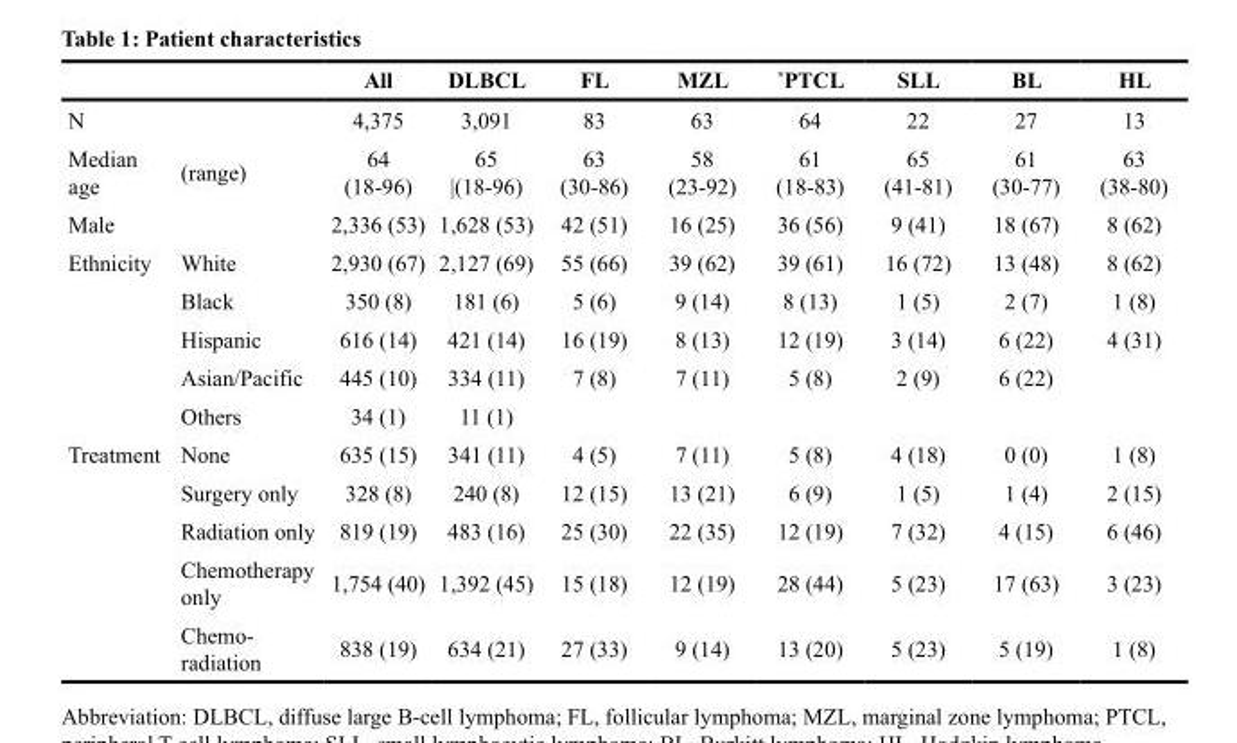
<table><thead><tr><td></td><td></td><td>All</td><td>DLBCL</td><td>FL</td><td>MZL</td><td>*PTCL</td><td>SLL</td><td>BL</td><td>HL</td></tr></thead><tbody><tr><td>N</td><td></td><td>4,375</td><td>3,091</td><td>83</td><td>63</td><td>64</td><td>22</td><td>27</td><td>13</td></tr><tr><td>Median age</td><td>(range)</td><td>64 (18-96)</td><td>65 |(18-96)</td><td>63 (30-86)</td><td>58 (23-92)</td><td>61 (18-83)</td><td>65 (41-81)</td><td>61 (30-77)</td><td>63 (38-80)</td></tr><tr><td>Male</td><td></td><td>2,336 (53)</td><td>1,628 (53)</td><td>42 (51)</td><td>16 (25)</td><td>36 (56)</td><td>9 (41)</td><td>18 (67)</td><td>8 (62)</td></tr><tr><td rowspan="5">Ethnicity</td><td>White</td><td>2,930 (67)</td><td>2,127 (69)</td><td>55 (66)</td><td>39 (62)</td><td>39 (61)</td><td>16 (72)</td><td>13 (48)</td><td>8 (62)</td></tr><tr><td>Black</td><td>350 (8)</td><td>181 (6)</td><td>5 (6)</td><td>9 (14)</td><td>8 (13)</td><td>1 (5)</td><td>2 (7)</td><td>1 (8)</td></tr><tr><td>Hispanic</td><td>616 (14)</td><td>421 (14)</td><td>16 (19)</td><td>8 (13)</td><td>12 (19)</td><td>3 (14)</td><td>6 (22)</td><td>4 (31)</td></tr><tr><td>Asian/Pacific</td><td>445 (10)</td><td>334 (11)</td><td>7 (8)</td><td>7 (11)</td><td>5 (8)</td><td>2 (9)</td><td>6 (22)</td><td></td></tr><tr><td>Others</td><td>34 (1)</td><td>11 (1)</td><td></td><td></td><td></td><td></td><td></td><td></td></tr><tr><td rowspan="5">Treatment</td><td>None</td><td>635 (15)</td><td>341 (11)</td><td>4 (5)</td><td>7 (11)</td><td>5 (8)</td><td>4 (18)</td><td>0 (0)</td><td>1 (8)</td></tr><tr><td>Surgery only</td><td>328 (8)</td><td>240 (8)</td><td>12 (15)</td><td>13 (21)</td><td>6 (9)</td><td>1 (5)</td><td>1 (4)</td><td>2 (15)</td></tr><tr><td>Radiation only</td><td>819 (19)</td><td>483 (16)</td><td>25 (30)</td><td>22 (35)</td><td>12 (19)</td><td>7 (32)</td><td>4 (15)</td><td>6 (46)</td></tr><tr><td>Chemotherapy only</td><td>1,754 (40)</td><td>1,392 (45)</td><td>15 (18)</td><td>12 (19)</td><td>28 (44)</td><td>5 (23)</td><td>17 (63)</td><td>3 (23)</td></tr><tr><td>Chemo- radiation</td><td>838 (19)</td><td>634 (21)</td><td>27 (33)</td><td>9 (14)</td><td>13 (20)</td><td>5 (23)</td><td>5 (19)</td><td>1 (8)</td></tr></tbody></table>